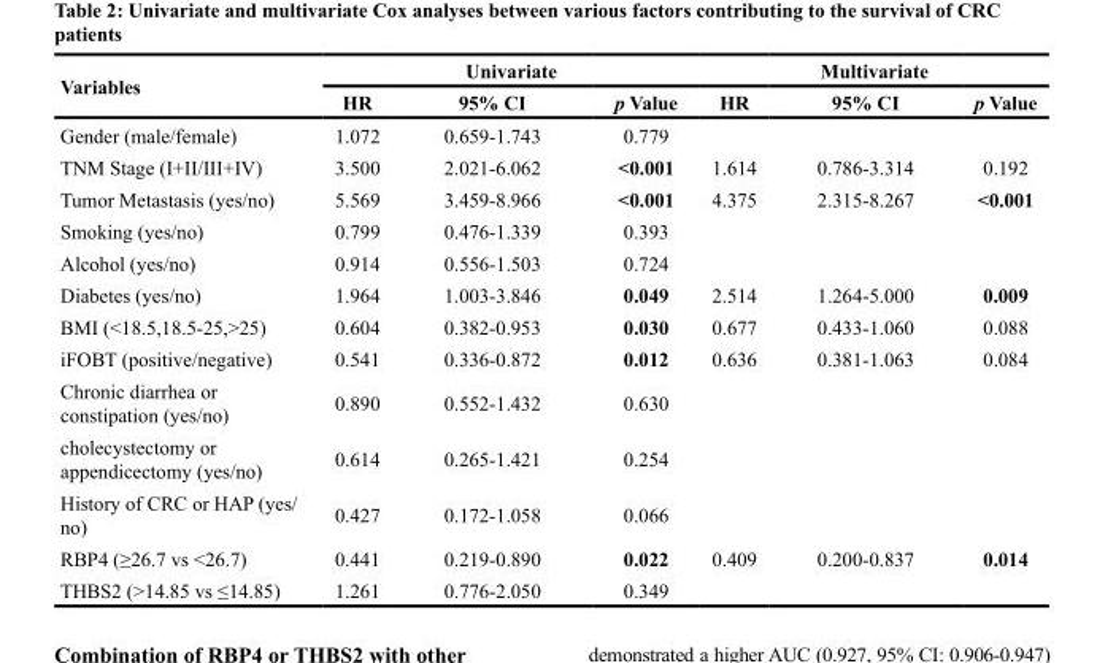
<table><thead><tr><td rowspan="2">Variables</td><td colspan="3">Univariate</td><td colspan="3">Multivariate</td></tr><tr><td>HR</td><td>95% CI</td><td>p Value</td><td>HR</td><td>95% CI</td><td>p Value</td></tr></thead><tbody><tr><td>Gender (male/female)</td><td>1.072</td><td>0.659-1.743</td><td>0.779</td><td></td><td></td><td></td></tr><tr><td>TNM Stage (I+II/III+IV)</td><td>3.500</td><td>2.021-6.062</td><td>&lt;0.001</td><td>1.614</td><td>0.786-3.314</td><td>0.192</td></tr><tr><td>Tumor Metastasis (yes/no)</td><td>5.569</td><td>3.459-8.966</td><td>&lt;0.001</td><td>4.375</td><td>2.315-8.267</td><td>&lt;0.001</td></tr><tr><td>Smoking (yes/no)</td><td>0.799</td><td>0.476-1.339</td><td>0.393</td><td></td><td></td><td></td></tr><tr><td>Alcohol (yes/no)</td><td>0.914</td><td>0.556-1.503</td><td>0.724</td><td></td><td></td><td></td></tr><tr><td>Diabetes (yes/no)</td><td>1.964</td><td>1.003-3.846</td><td>0.049</td><td>2.514</td><td>1.264-5.000</td><td>0.009</td></tr><tr><td>BMI (&lt;18.5,18.5-25,&gt;25)</td><td>0.604</td><td>0.382-0.953</td><td>0.030</td><td>0.677</td><td>0.433-1.060</td><td>0.088</td></tr><tr><td>iFOBT (positive/negative)</td><td>0.541</td><td>0.336-0.872</td><td>0.012</td><td>0.636</td><td>0.381-1.063</td><td>0.084</td></tr><tr><td>Chronic diarrhea or constipation (yes/no)</td><td>0.890</td><td>0.552-1.432</td><td>0.630</td><td></td><td></td><td></td></tr><tr><td>cholecystectomy or appendicectomy (yes/no)</td><td>0.614</td><td>0.265-1.421</td><td>0.254</td><td></td><td></td><td></td></tr><tr><td>History of CRC or HAP (yes/ no)</td><td>0.427</td><td>0.172-1.058</td><td>0.066</td><td></td><td></td><td></td></tr><tr><td>RBP4 (≥26.7 vs &lt;26.7)</td><td>0.441</td><td>0.219-0.890</td><td>0.022</td><td>0.409</td><td>0.200-0.837</td><td>0.014</td></tr><tr><td>THBS2 (&gt;14.85 vs ≤14.85)</td><td>1.261</td><td>0.776-2.050</td><td>0.349</td><td></td><td></td><td></td></tr></tbody></table>